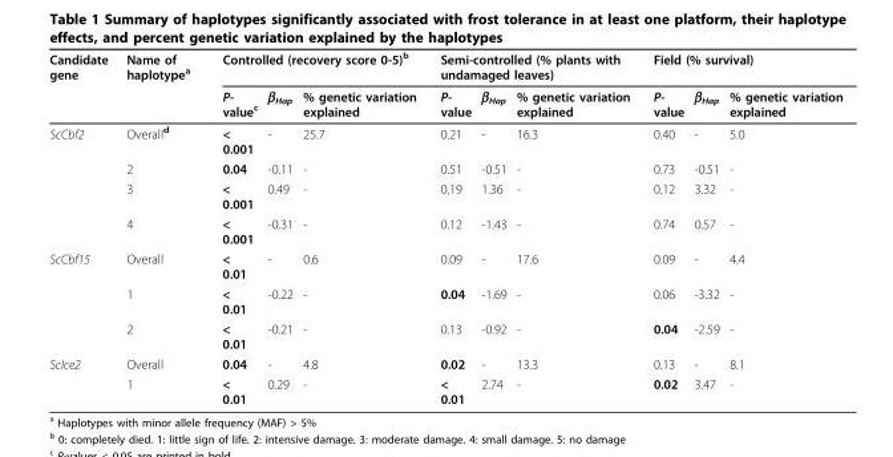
<table><thead><tr><td rowspan="2">Candidate gene</td><td rowspan="2">Name of haplotype<sup>a</sup></td><td colspan="3">Controlled (recovery score 0-5)<sup>b</sup></td><td colspan="3">Semi-controlled (% plants with undamaged leaves)</td><td colspan="3">Field (% survival)</td></tr><tr><td>P- value<sup>c</sup></td><td>β<sub>Hap</sub></td><td>% genetic variation explained</td><td>P- value</td><td>β<sub>Hap</sub></td><td>% genetic variation explained</td><td>P- value</td><td>β<sub>Hap</sub></td><td>% genetic variation explained</td></tr></thead><tbody><tr><td rowspan="4">ScCbf2</td><td>Overall<sup>d</sup></td><td>&lt; 0.001</td><td>-</td><td>25.7</td><td>0.21</td><td>-</td><td>16.3</td><td>0.40</td><td>-</td><td>5.0</td></tr><tr><td>2</td><td>0.04</td><td>-0.11</td><td>-</td><td>0.51</td><td>-0.51</td><td>-</td><td>0.73</td><td>-0.51</td><td>-</td></tr><tr><td>3</td><td>&lt; 0.001</td><td>0.49</td><td>-</td><td>0.19</td><td>1.36</td><td>-</td><td>0.12</td><td>3.32</td><td>-</td></tr><tr><td>4</td><td>&lt; 0.001</td><td>-0.31</td><td>-</td><td>0.12</td><td>-1.43</td><td>-</td><td>0.74</td><td>0.57</td><td>-</td></tr><tr><td rowspan="3">ScCbf15</td><td>Overall</td><td>&lt; 0.01</td><td>-</td><td>0.6</td><td>0.09</td><td>-</td><td>17.6</td><td>0.09</td><td>-</td><td>4.4</td></tr><tr><td>1</td><td>&lt; 0.01</td><td>-0.22</td><td>-</td><td>0.04</td><td>-1.69</td><td>-</td><td>0.06</td><td>-3.32</td><td>-</td></tr><tr><td>2</td><td>&lt; 0.01</td><td>-0.21</td><td>-</td><td>0.13</td><td>-0.92</td><td>-</td><td>0.04</td><td>-2.59</td><td>-</td></tr><tr><td rowspan="2">ScIce2</td><td>Overall</td><td>0.04</td><td>-</td><td>4.8</td><td>0.02</td><td>-</td><td>13.3</td><td>0.13</td><td>-</td><td>8.1</td></tr><tr><td>1</td><td>&lt; 0.01</td><td>0.29</td><td>-</td><td>&lt; 0.01</td><td>2.74</td><td>-</td><td>0.02</td><td>3.47</td><td>-</td></tr></tbody></table>